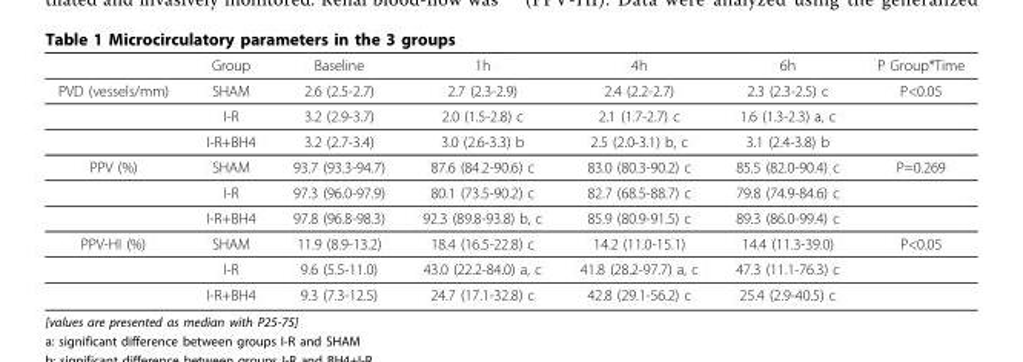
<table><thead><tr><td></td><td>Group</td><td>Baseline</td><td>1h</td><td>4h</td><td>6h</td><td>P Group*Time</td></tr></thead><tbody><tr><td rowspan="3">PVD (vessels/mm)</td><td>SHAM</td><td>2.6 (2.5-2.7)</td><td>2.7 (2.3-2.9)</td><td>2.4 (2.2-2.7)</td><td>2.3 (2.3-2.5) c</td><td>P&lt;0.05</td></tr><tr><td>I-R</td><td>3.2 (2.9-3.7)</td><td>2.0 (1.5-2.8) c</td><td>2.1 (1.7-2.7) c</td><td>1.6 (1.3-2.3) a, c</td><td></td></tr><tr><td>I-R+BH4</td><td>3.2 (2.7-3.4)</td><td>3.0 (2.6-3.3) b</td><td>2.5 (2.0-3.1) b, c</td><td>3.1 (2.4-3.8) b</td><td></td></tr><tr><td rowspan="3">PPV (%)</td><td>SHAM</td><td>93.7 (93.3-94.7)</td><td>87.6 (84.2-90.6) c</td><td>83.0 (80.3-90.2) c</td><td>85.5 (82.0-90.4) c</td><td>P=0.269</td></tr><tr><td>I-R</td><td>97.3 (96.0-97.9)</td><td>80.1 (73.5-90.2) c</td><td>82.7 (68.5-88.7) c</td><td>79.8 (74.9-84.6) c</td><td></td></tr><tr><td>I-R+BH4</td><td>97.8 (96.8-98.3)</td><td>92.3 (89.8-93.8) b, c</td><td>85.9 (80.9-91.5) c</td><td>89.3 (86.0-99.4) c</td><td></td></tr><tr><td rowspan="3">PPV-HI (%)</td><td>SHAM</td><td>11.9 (8.9-13.2)</td><td>18.4 (16.5-22.8) c</td><td>14.2 (11.0-15.1)</td><td>14.4 (11.3-39.0)</td><td>P&lt;0.05</td></tr><tr><td>I-R</td><td>9.6 (5.5-11.0)</td><td>43.0 (22.2-84.0) a, c</td><td>41.8 (28.2-97.7) a, c</td><td>47.3 (11.1-76.3) c</td><td></td></tr><tr><td>I-R+BH4</td><td>9.3 (7.3-12.5)</td><td>24.7 (17.1-32.8) c</td><td>42.8 (29.1-56.2) c</td><td>25.4 (2.9-40.5) c</td><td></td></tr></tbody></table>